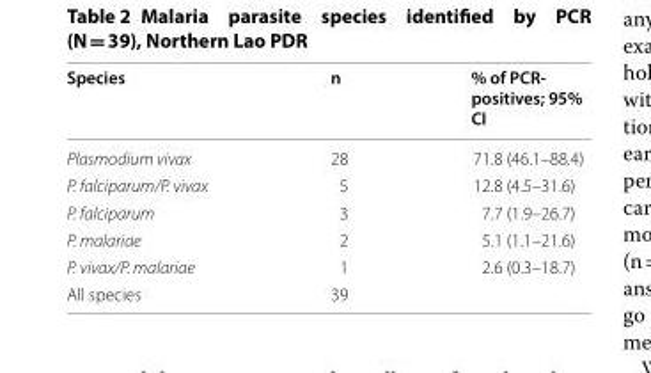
<table><thead><tr><td>Species</td><td>n</td><td>% of PCR‑ positives; 95% CI</td></tr></thead><tbody><tr><td>Plasmodium vivax</td><td>28</td><td>71.8 (46.1–88.4)</td></tr><tr><td>P. falciparum/P. vivax</td><td>5</td><td>12.8 (4.5–31.6)</td></tr><tr><td>P. falciparum</td><td>3</td><td>7.7 (1.9–26.7)</td></tr><tr><td>P. malariae</td><td>2</td><td>5.1 (1.1–21.6)</td></tr><tr><td>P. vivax/P. malariae</td><td>1</td><td>2.6 (0.3–18.7)</td></tr><tr><td>All species</td><td>39</td><td></td></tr></tbody></table>